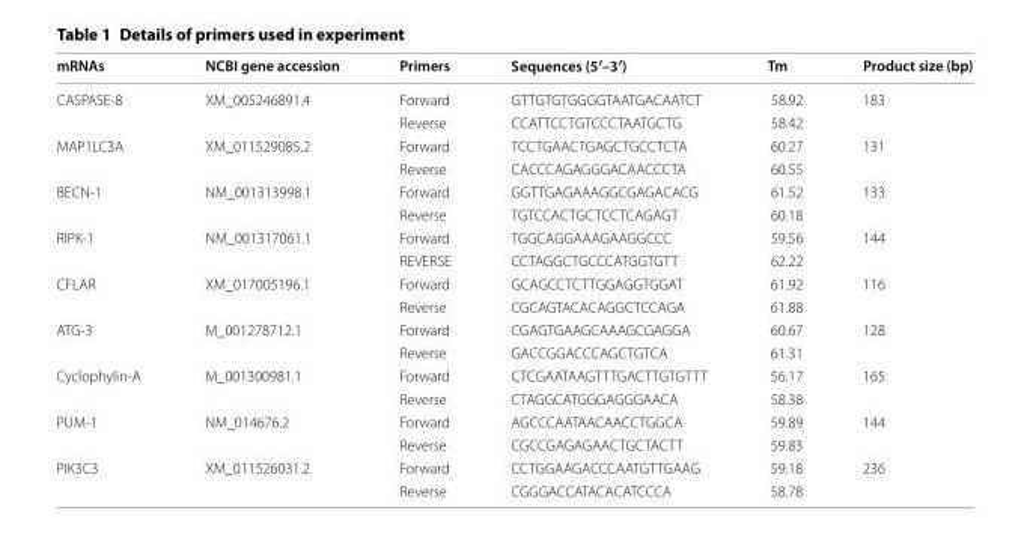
<table><thead><tr><td>mRNAs</td><td>NCBI gene accession</td><td>Primers</td><td>Sequences (5′–3′)</td><td>Tm</td><td>Product size (bp)</td></tr></thead><tbody><tr><td rowspan="2">CASPASE-8</td><td rowspan="2">XM_005246891.4</td><td>Forward</td><td>GTTGTGTGGGGTAATGACAATCT</td><td>58.92</td><td rowspan="2">183</td></tr><tr><td>Reverse</td><td>CCATTCCTGTCCCTAATGCTG</td><td>58.42</td></tr><tr><td rowspan="2">MAP1LC3A</td><td rowspan="2">XM_011529085.2</td><td>Forward</td><td>TCCTGAACTGAGCTGCCTCTA</td><td>60.27</td><td rowspan="2">131</td></tr><tr><td>Reverse</td><td>CACCCAGAGGGACAACCCTA</td><td>60.55</td></tr><tr><td rowspan="2">BECN-1</td><td rowspan="2">NM_001313998.1</td><td>Forward</td><td>GGTTGAGAAAGGCGAGACACG</td><td>61.52</td><td rowspan="2">133</td></tr><tr><td>Reverse</td><td>TGTCCACTGCTCCTCAGAGT</td><td>60.18</td></tr><tr><td rowspan="2">RIPK-1</td><td rowspan="2">NM_001317061.1</td><td>Forward</td><td>TGGCAGGAAAGAAGGCCC</td><td>59.56</td><td rowspan="2">144</td></tr><tr><td>REVERSE</td><td>CCTAGGCTGCCCATGGTGTT</td><td>62.22</td></tr><tr><td rowspan="2">CFLAR</td><td rowspan="2">XM_017005196.1</td><td>Forward</td><td>GCAGCCTCTTGGAGGTGGAT</td><td>61.92</td><td rowspan="2">116</td></tr><tr><td>Reverse</td><td>CGCAGTACACAGGCTCCAGA</td><td>61.88</td></tr><tr><td rowspan="2">ATG-3</td><td rowspan="2">M_001278712.1</td><td>Forward</td><td>CGAGTGAAGCAAAGCGAGGA</td><td>60.67</td><td rowspan="2">128</td></tr><tr><td>Reverse</td><td>GACCGGACCCAGCTGTCA</td><td>61.31</td></tr><tr><td rowspan="2">Cyclophylin-A</td><td rowspan="2">M_001300981.1</td><td>Forward</td><td>CTCGAATAAGTTTGACTTGTGTTT</td><td>56.17</td><td rowspan="2">165</td></tr><tr><td>Reverse</td><td>CTAGGCATGGGAGGGAACA</td><td>58.38</td></tr><tr><td rowspan="2">PUM-1</td><td rowspan="2">NM_014676.2</td><td>Forward</td><td>AGCCCAATAACAACCTGGCA</td><td>59.89</td><td rowspan="2">144</td></tr><tr><td>Reverse</td><td>CGCCGAGAGAACTGCTACTT</td><td>59.83</td></tr><tr><td rowspan="2">PIK3C3</td><td rowspan="2">XM_011526031.2</td><td>Forward</td><td>CCTGGAAGACCCAATGTTGAAG</td><td>59.18</td><td rowspan="2">236</td></tr><tr><td>Reverse</td><td>CGGGACCATACACATCCCA</td><td>58.78</td></tr></tbody></table>